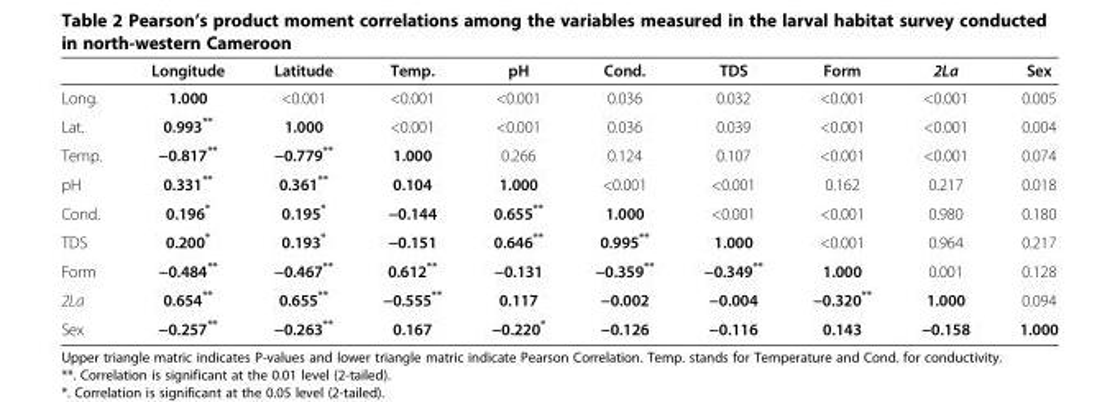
<table><thead><tr><td></td><td>Longitude</td><td>Latitude</td><td>Temp.</td><td>pH</td><td>Cond.</td><td>TDS</td><td>Form</td><td>2La</td><td>Sex</td></tr></thead><tbody><tr><td>Long.</td><td>1.000</td><td>&lt;0.001</td><td>&lt;0.001</td><td>&lt;0.001</td><td>0.036</td><td>0.032</td><td>&lt;0.001</td><td>&lt;0.001</td><td>0.005</td></tr><tr><td>Lat.</td><td>0.993**</td><td>1.000</td><td>&lt;0.001</td><td>&lt;0.001</td><td>0.036</td><td>0.039</td><td>&lt;0.001</td><td>&lt;0.001</td><td>0.004</td></tr><tr><td>Temp.</td><td>−0.817**</td><td>−0.779**</td><td>1.000</td><td>0.266</td><td>0.124</td><td>0.107</td><td>&lt;0.001</td><td>&lt;0.001</td><td>0.074</td></tr><tr><td>pH</td><td>0.331**</td><td>0.361**</td><td>0.104</td><td>1.000</td><td>&lt;0.001</td><td>&lt;0.001</td><td>0.162</td><td>0.217</td><td>0.018</td></tr><tr><td>Cond.</td><td>0.196*</td><td>0.195*</td><td>−0.144</td><td>0.655**</td><td>1.000</td><td>&lt;0.001</td><td>&lt;0.001</td><td>0.980</td><td>0.180</td></tr><tr><td>TDS</td><td>0.200*</td><td>0.193*</td><td>−0.151</td><td>0.646**</td><td>0.995**</td><td>1.000</td><td>&lt;0.001</td><td>0.964</td><td>0.217</td></tr><tr><td>Form</td><td>−0.484**</td><td>−0.467**</td><td>0.612**</td><td>−0.131</td><td>−0.359**</td><td>−0.349**</td><td>1.000</td><td>0.001</td><td>0.128</td></tr><tr><td>2La</td><td>0.654**</td><td>0.655**</td><td>−0.555**</td><td>0.117</td><td>−0.002</td><td>−0.004</td><td>−0.320**</td><td>1.000</td><td>0.094</td></tr><tr><td>Sex</td><td>−0.257**</td><td>−0.263**</td><td>0.167</td><td>−0.220*</td><td>−0.126</td><td>−0.116</td><td>0.143</td><td>−0.158</td><td>1.000</td></tr></tbody></table>